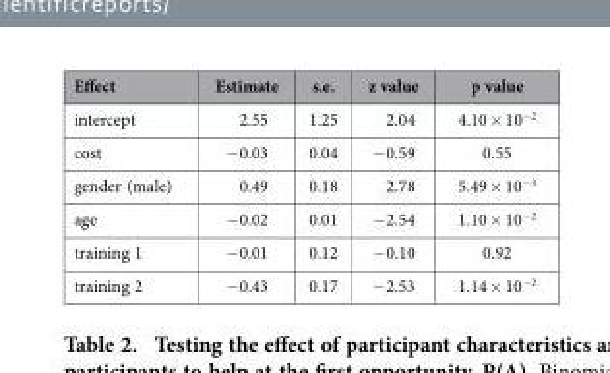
<table><thead><tr><td>Effect</td><td>Estimate</td><td>s.e.</td><td>z value</td><td>p value</td></tr></thead><tbody><tr><td>intercept</td><td>2.55</td><td>1.25</td><td>2.04</td><td>4.10 × 10<sup>−2</sup></td></tr><tr><td>cost</td><td>− 0.03</td><td>0.04</td><td>− 0.59</td><td>0.55</td></tr><tr><td>gender (male)</td><td>0.49</td><td>0.18</td><td>2.78</td><td>5.49 × 10<sup>−3</sup></td></tr><tr><td>age</td><td>− 0.02</td><td>0.01</td><td>− 2.54</td><td>1.10 × 10<sup>−2</sup></td></tr><tr><td>training 1</td><td>− 0.01</td><td>0.12</td><td>− 0.10</td><td>0.92</td></tr><tr><td>training 2</td><td>− 0.43</td><td>0.17</td><td>− 2.53</td><td>1.14 × 10<sup>−2</sup></td></tr></tbody></table>